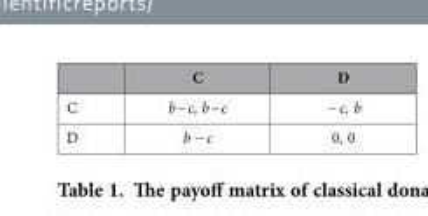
<table><thead><tr><td></td><td>C</td><td>D</td></tr></thead><tbody><tr><td>C</td><td>b – c, b – c</td><td>− c, b</td></tr><tr><td>D</td><td>b − c</td><td>0, 0</td></tr></tbody></table>